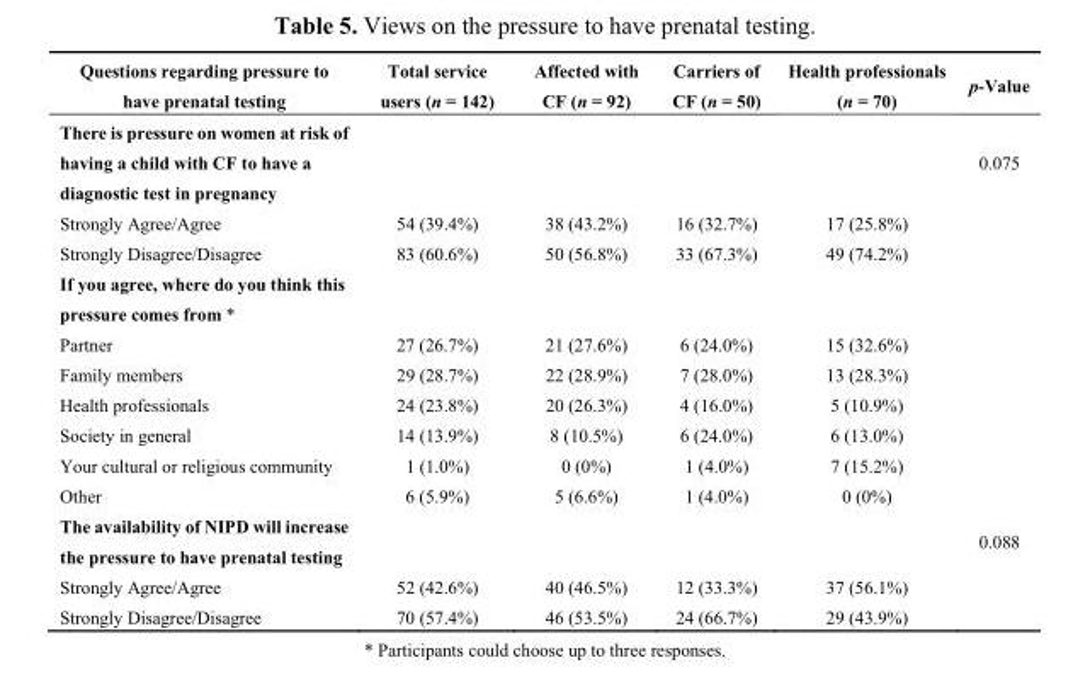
<table><thead><tr><td>Questions regarding pressure to have prenatal testing</td><td>Total service users (n = 142)</td><td>Affected with CF (n = 92)</td><td>Carriers of CF (n = 50)</td><td>Health professionals (n = 70)</td><td>p-Value</td></tr></thead><tbody><tr><td>There is pressure on women at risk of having a child with CF to have a diagnostic test in pregnancy</td><td></td><td></td><td></td><td></td><td>0.075</td></tr><tr><td>Strongly Agree/Agree</td><td>54 (39.4%)</td><td>38 (43.2%)</td><td>16 (32.7%)</td><td>17 (25.8%)</td><td></td></tr><tr><td>Strongly Disagree/Disagree</td><td>83 (60.6%)</td><td>50 (56.8%)</td><td>33 (67.3%)</td><td>49 (74.2%)</td><td></td></tr><tr><td colspan="6">If you agree, where do you think this pressure comes from *</td></tr><tr><td>Partner</td><td>27 (26.7%)</td><td>21 (27.6%)</td><td>6 (24.0%)</td><td>15 (32.6%)</td><td></td></tr><tr><td>Family members</td><td>29 (28.7%)</td><td>22 (28.9%)</td><td>7 (28.0%)</td><td>13 (28.3%)</td><td></td></tr><tr><td>Health professionals</td><td>24 (23.8%)</td><td>20 (26.3%)</td><td>4 (16.0%)</td><td>5 (10.9%)</td><td></td></tr><tr><td>Society in general</td><td>14 (13.9%)</td><td>8 (10.5%)</td><td>6 (24.0%)</td><td>6 (13.0%)</td><td></td></tr><tr><td>Your cultural or religious community</td><td>1 (1.0%)</td><td>0 (0%)</td><td>1 (4.0%)</td><td>7 (15.2%)</td><td></td></tr><tr><td>Other</td><td>6 (5.9%)</td><td>5 (6.6%)</td><td>1 (4.0%)</td><td>0 (0%)</td><td></td></tr><tr><td>The availability of NIPD will increase the pressure to have prenatal testing</td><td></td><td></td><td></td><td></td><td>0.088</td></tr><tr><td>Strongly Agree/Agree</td><td>52 (42.6%)</td><td>40 (46.5%)</td><td>12 (33.3%)</td><td>37 (56.1%)</td><td></td></tr><tr><td>Strongly Disagree/Disagree</td><td>70 (57.4%)</td><td>46 (53.5%)</td><td>24 (66.7%)</td><td>29 (43.9%)</td><td></td></tr></tbody></table>